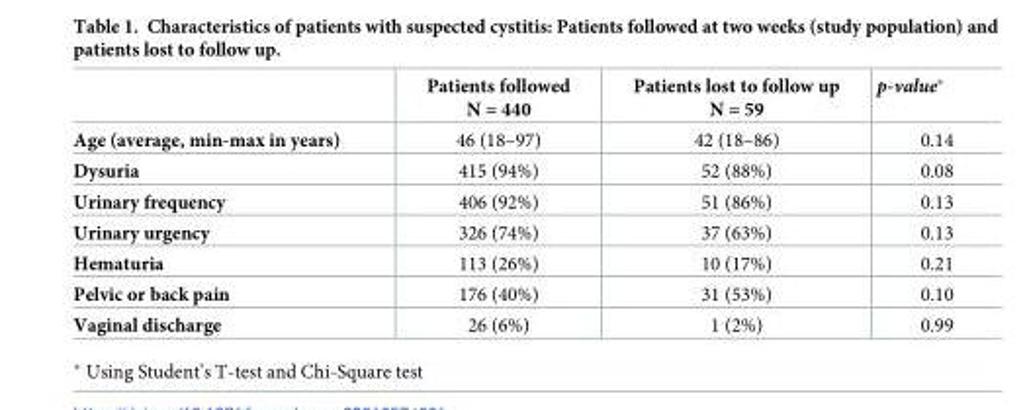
<table><thead><tr><td></td><td>Patients followed N = 440</td><td>Patients lost to follow up N = 59</td><td>p-value*</td></tr></thead><tbody><tr><td>Age (average, min-max in years)</td><td>46 (18–97)</td><td>42 (18–86)</td><td>0.14</td></tr><tr><td>Dysuria</td><td>415 (94%)</td><td>52 (88%)</td><td>0.08</td></tr><tr><td>Urinary frequency</td><td>406 (92%)</td><td>51 (86%)</td><td>0.13</td></tr><tr><td>Urinary urgency</td><td>326 (74%)</td><td>37 (63%)</td><td>0.13</td></tr><tr><td>Hematuria</td><td>113 (26%)</td><td>10 (17%)</td><td>0.21</td></tr><tr><td>Pelvic or back pain</td><td>176 (40%)</td><td>31 (53%)</td><td>0.10</td></tr><tr><td>Vaginal discharge</td><td>26 (6%)</td><td>1 (2%)</td><td>0.99</td></tr></tbody></table>